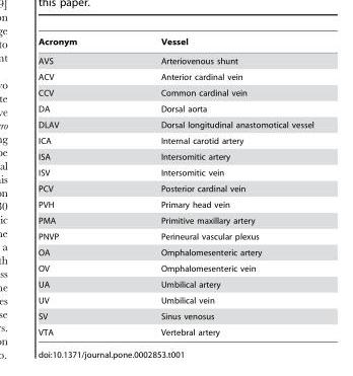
<table><thead><tr><td>Acronym</td><td>Vessel</td></tr></thead><tbody><tr><td>AVS</td><td>Arteriovenous shunt</td></tr><tr><td>ACV</td><td>Anterior cardinal vein</td></tr><tr><td>CCV</td><td>Common cardinal vein</td></tr><tr><td>DA</td><td>Dorsal aorta</td></tr><tr><td>DLAV</td><td>Dorsal longitudinal anastomotical vessel</td></tr><tr><td>ICA</td><td>Internal carotid artery</td></tr><tr><td>ISA</td><td>Intersomitic artery</td></tr><tr><td>ISV</td><td>Intersomitic vein</td></tr><tr><td>PCV</td><td>Posterior cardinal vein</td></tr><tr><td>PVH</td><td>Primary head vein</td></tr><tr><td>PMA</td><td>Primitive maxillary artery</td></tr><tr><td>PNVP</td><td>Perineural vascular plexus</td></tr><tr><td>OA</td><td>Omphalomesenteric artery</td></tr><tr><td>OV</td><td>Omphalomesenteric vein</td></tr><tr><td>UA</td><td>Umbilical artery</td></tr><tr><td>UV</td><td>Umbilical vein</td></tr><tr><td>SV</td><td>Sinus venosus</td></tr><tr><td>VTA</td><td>Vertebral artery</td></tr></tbody></table>